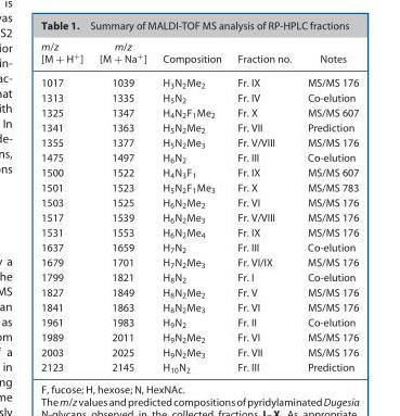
<table><thead><tr><td>m/z [M + H<sup>+</sup>]</td><td>m/z [M + Na<sup>+</sup>]</td><td>Composition</td><td>Fraction no.</td><td>Notes</td></tr></thead><tbody><tr><td>1017</td><td>1039</td><td>H<sub>3</sub>N<sub>2</sub>Me<sub>2</sub></td><td>Fr. IX</td><td>MS/MS 176</td></tr><tr><td>1313</td><td>1335</td><td>H<sub>5</sub>N<sub>2</sub></td><td>Fr. IV</td><td>Co-elution</td></tr><tr><td>1325</td><td>1347</td><td>H<sub>4</sub>N<sub>2</sub>F<sub>1</sub>Me<sub>2</sub></td><td>Fr. X</td><td>MS/MS 607</td></tr><tr><td>1341</td><td>1363</td><td>H<sub>5</sub>N<sub>2</sub>Me<sub>2</sub></td><td>Fr. VII</td><td>Prediction</td></tr><tr><td>1355</td><td>1377</td><td>H<sub>5</sub>N<sub>2</sub>Me<sub>3</sub></td><td>Fr. V/VIII</td><td>MS/MS 176</td></tr><tr><td>1475</td><td>1497</td><td>H<sub>6</sub>N<sub>2</sub></td><td>Fr. III</td><td>Co-elution</td></tr><tr><td>1500</td><td>1522</td><td>H<sub>4</sub>N<sub>3</sub>F<sub>1</sub></td><td>Fr. IX</td><td>MS/MS 607</td></tr><tr><td>1501</td><td>1523</td><td>H<sub>5</sub>N<sub>2</sub>F<sub>1</sub>Me<sub>3</sub></td><td>Fr. X</td><td>MS/MS 783</td></tr><tr><td>1503</td><td>1525</td><td>H<sub>6</sub>N<sub>2</sub>Me<sub>2</sub></td><td>Fr. VI</td><td>MS/MS 176</td></tr><tr><td>1517</td><td>1539</td><td>H<sub>6</sub>N<sub>2</sub>Me<sub>3</sub></td><td>Fr. V/VIII</td><td>MS/MS 176</td></tr><tr><td>1531</td><td>1553</td><td>H<sub>6</sub>N<sub>2</sub>Me<sub>4</sub></td><td>Fr. IX</td><td>MS/MS 176</td></tr><tr><td>1637</td><td>1659</td><td>H<sub>7</sub>N<sub>2</sub></td><td>Fr. III</td><td>Co-elution</td></tr><tr><td>1679</td><td>1701</td><td>H<sub>7</sub>N<sub>2</sub>Me<sub>3</sub></td><td>Fr. VI/IX</td><td>MS/MS 176</td></tr><tr><td>1799</td><td>1821</td><td>H<sub>8</sub>N<sub>2</sub></td><td>Fr. I</td><td>Co-elution</td></tr><tr><td>1827</td><td>1849</td><td>H<sub>8</sub>N<sub>2</sub>Me<sub>2</sub></td><td>Fr. V</td><td>MS/MS 176</td></tr><tr><td>1841</td><td>1863</td><td>H<sub>8</sub>N<sub>2</sub>Me<sub>3</sub></td><td>Fr. VI</td><td>MS/MS 176</td></tr><tr><td>1961</td><td>1983</td><td>H<sub>9</sub>N<sub>2</sub></td><td>Fr. II</td><td>Co-elution</td></tr><tr><td>1989</td><td>2011</td><td>H<sub>9</sub>N<sub>2</sub>Me<sub>2</sub></td><td>Fr. VI</td><td>MS/MS 176</td></tr><tr><td>2003</td><td>2025</td><td>H<sub>9</sub>N<sub>2</sub>Me<sub>3</sub></td><td>Fr. VII</td><td>MS/MS 176</td></tr><tr><td>2123</td><td>2145</td><td>H<sub>10</sub>N<sub>2</sub></td><td>Fr. III</td><td>Prediction</td></tr></tbody></table>